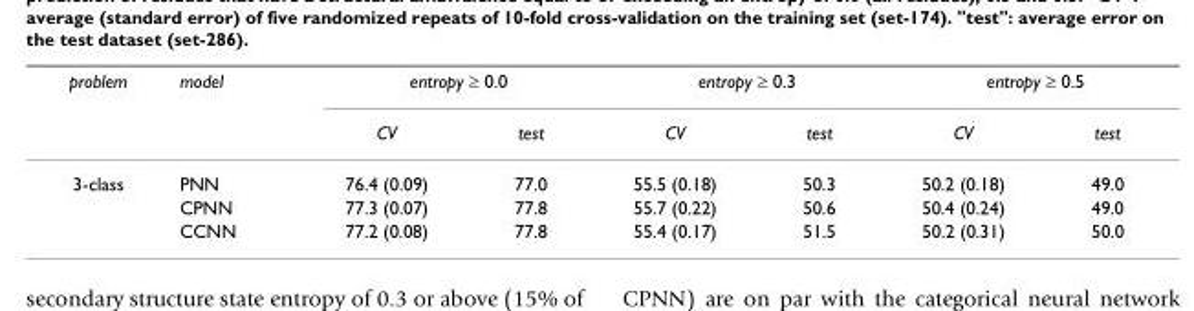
<table><thead><tr><td rowspan="2">problem</td><td rowspan="2">model</td><td colspan="2">entropy ≥ 0.0</td><td colspan="2">entropy ≥ 0.3</td><td colspan="2">entropy ≥ 0.5</td></tr><tr><td>CV</td><td>test</td><td>CV</td><td>test</td><td>CV</td><td>test</td></tr></thead><tbody><tr><td rowspan="3">3-class</td><td>PNN</td><td>76.4 (0.09)</td><td>77.0</td><td>55.5 (0.18)</td><td>50.3</td><td>50.2 (0.18)</td><td>49.0</td></tr><tr><td>CPNN</td><td>77.3 (0.07)</td><td>77.8</td><td>55.7 (0.22)</td><td>50.6</td><td>50.4 (0.24)</td><td>49.0</td></tr><tr><td>CCNN</td><td>77.2 (0.08)</td><td>77.8</td><td>55.4 (0.17)</td><td>51.5</td><td>50.2 (0.31)</td><td>50.0</td></tr></tbody></table>